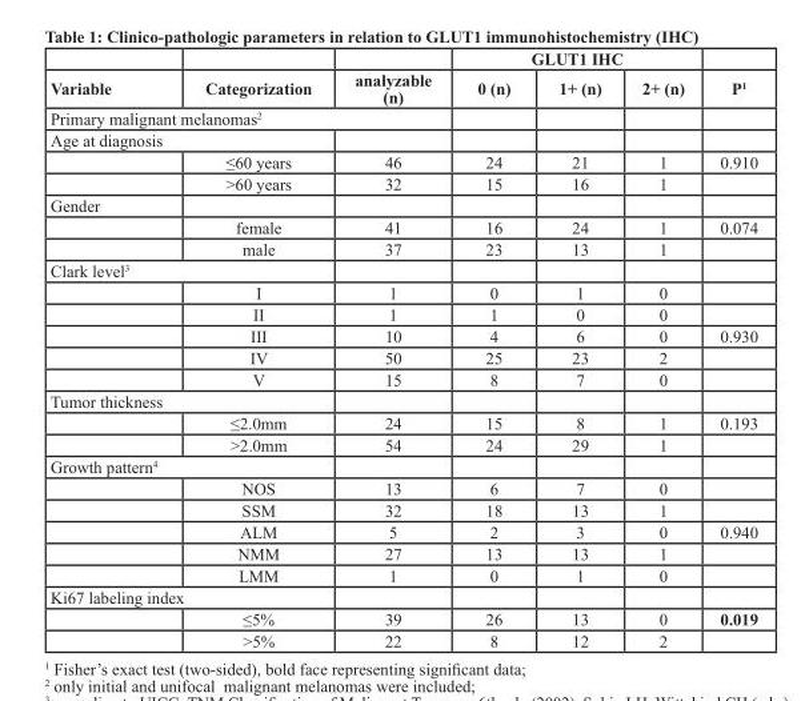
<table><thead><tr><td rowspan="2">Variable</td><td rowspan="2">Categorization</td><td rowspan="2">analyzable (n)</td><td colspan="3">GLUT1 IHC</td><td rowspan="2">P<sup>1</sup></td></tr><tr><td>0 (n)</td><td>1+ (n)</td><td>2+ (n)</td></tr></thead><tbody><tr><td colspan="7">Primary malignant melanomas<sup>2</sup></td></tr><tr><td colspan="7">Age at diagnosis</td></tr><tr><td></td><td>≤60 years</td><td>46</td><td>24</td><td>21</td><td>1</td><td>0.910</td></tr><tr><td></td><td>&gt;60 years</td><td>32</td><td>15</td><td>16</td><td>1</td><td></td></tr><tr><td colspan="7">Gender</td></tr><tr><td></td><td>female</td><td>41</td><td>16</td><td>24</td><td>1</td><td>0.074</td></tr><tr><td></td><td>male</td><td>37</td><td>23</td><td>13</td><td>1</td><td></td></tr><tr><td colspan="7">Clark level<sup>3</sup></td></tr><tr><td></td><td>I</td><td>1</td><td>0</td><td>1</td><td>0</td><td></td></tr><tr><td></td><td>II</td><td>1</td><td>1</td><td>0</td><td>0</td><td></td></tr><tr><td></td><td>III</td><td>10</td><td>4</td><td>6</td><td>0</td><td>0.930</td></tr><tr><td></td><td>IV</td><td>50</td><td>25</td><td>23</td><td>2</td><td></td></tr><tr><td></td><td>V</td><td>15</td><td>8</td><td>7</td><td>0</td><td></td></tr><tr><td colspan="7">Tumor thickness</td></tr><tr><td></td><td>≤2.0mm</td><td>24</td><td>15</td><td>8</td><td>1</td><td>0.193</td></tr><tr><td></td><td>&gt;2.0mm</td><td>54</td><td>24</td><td>29</td><td>1</td><td></td></tr><tr><td colspan="7">Growth pattern<sup>4</sup></td></tr><tr><td></td><td>NOS</td><td>13</td><td>6</td><td>7</td><td>0</td><td></td></tr><tr><td></td><td>SSM</td><td>32</td><td>18</td><td>13</td><td>1</td><td></td></tr><tr><td></td><td>ALM</td><td>5</td><td>2</td><td>3</td><td>0</td><td>0.940</td></tr><tr><td></td><td>NMM</td><td>27</td><td>13</td><td>13</td><td>1</td><td></td></tr><tr><td></td><td>LMM</td><td>1</td><td>0</td><td>1</td><td>0</td><td></td></tr><tr><td colspan="7">Ki67 labeling index</td></tr><tr><td></td><td>≤5%</td><td>39</td><td>26</td><td>13</td><td>0</td><td>0.019</td></tr><tr><td></td><td>&gt;5%</td><td>22</td><td>8</td><td>12</td><td>2</td><td></td></tr></tbody></table>